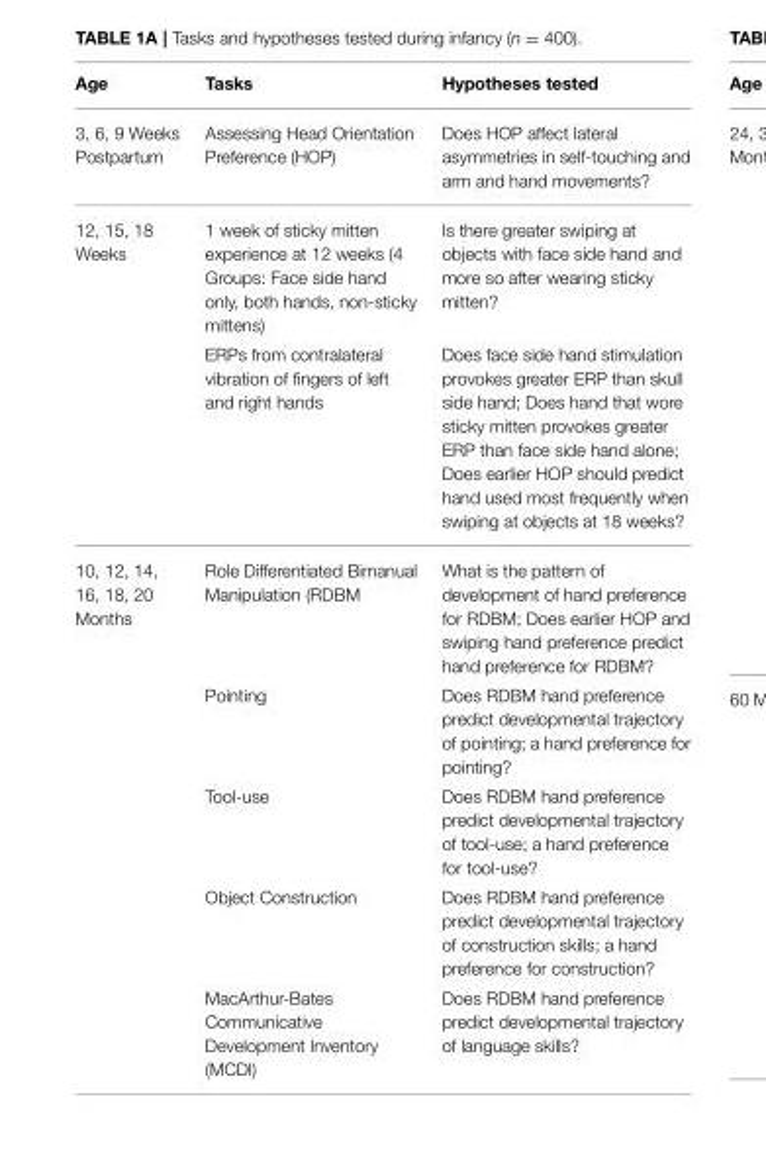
<table><thead><tr><td>Age</td><td>Tasks</td><td>Hypotheses tested</td></tr></thead><tbody><tr><td>3, 6, 9 Weeks Postpartum</td><td>Assessing Head Orientation Preference (HOP)</td><td>Does HOP affect lateral asymmetries in self-touching and arm and hand movements?</td></tr><tr><td rowspan="2">12, 15, 18 Weeks</td><td>1 week of sticky mitten experience at 12 weeks (4 Groups: Face side hand only, both hands, non-sticky mittens)</td><td>Is there greater swiping at objects with face side hand and more so after wearing sticky mitten?</td></tr><tr><td>ERPs from contralateral vibration of fingers of left and right hands</td><td>Does face side hand stimulation provokes greater ERP than skull side hand; Does hand that wore sticky mitten provokes greater ERP than face side hand alone; Does earlier HOP should predict hand used most frequently when swiping at objects at 18 weeks?</td></tr><tr><td rowspan="5">10, 12, 14, 16, 18, 20 Months</td><td>Role Differentiated Bimanual Manipulation (RDBM</td><td>What is the pattern of development of hand preference for RDBM; Does earlier HOP and swiping hand preference predict hand preference for RDBM?</td></tr><tr><td>Pointing</td><td>Does RDBM hand preference predict developmental trajectory of pointing; a hand preference for pointing?</td></tr><tr><td>Tool-use</td><td>Does RDBM hand preference predict developmental trajectory of tool-use; a hand preference for tool-use?</td></tr><tr><td>Object Construction</td><td>Does RDBM hand preference predict developmental trajectory of construction skills; a hand preference for construction?</td></tr><tr><td>MacArthur-Bates Communicative Development Inventory (MCDI)</td><td>Does RDBM hand preference predict developmental trajectory of language skills?</td></tr></tbody></table>